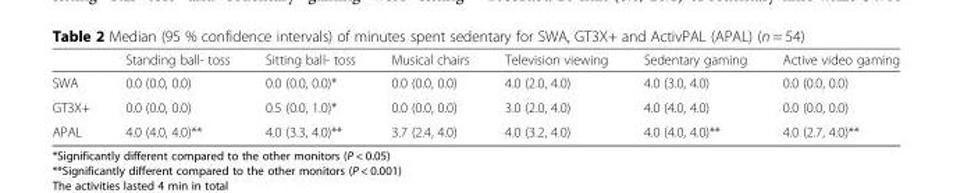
<table><thead><tr><td></td><td>Standing ball- toss</td><td>Sitting ball- toss</td><td>Musical chairs</td><td>Television viewing</td><td>Sedentary gaming</td><td>Active video gaming</td></tr></thead><tbody><tr><td>SWA</td><td>0.0 (0.0, 0.0)</td><td>0.0 (0.0, 0.0)*</td><td>0.0 (0.0, 0.0)</td><td>4.0 (2.0, 4.0)</td><td>4.0 (3.0, 4.0)</td><td>0.0 (0.0, 0.0)</td></tr><tr><td>GT3X+</td><td>0.0 (0.0, 0.0)</td><td>0.5 (0.0, 1.0)*</td><td>0.0 (0.0, 0.0)</td><td>3.0 (2.0, 4.0)</td><td>4.0 (4.0, 4.0)</td><td>0.0 (0.0, 0.0)</td></tr><tr><td>APAL</td><td>4.0 (4.0, 4.0)**</td><td>4.0 (3.3, 4.0)**</td><td>3.7 (2.4, 4.0)</td><td>4.0 (3.2, 4.0)</td><td>4.0 (4.0, 4.0)**</td><td>4.0 (2.7, 4.0)**</td></tr></tbody></table>